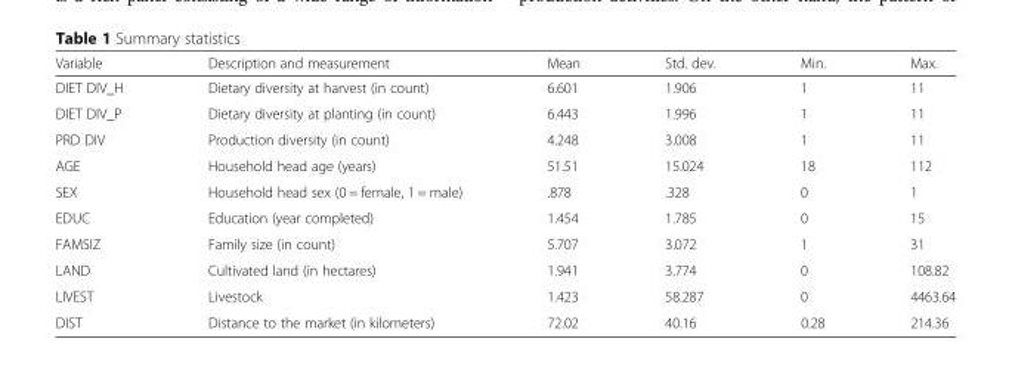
<table><thead><tr><td>Variable</td><td>Description and measurement</td><td>Mean</td><td>Std. dev.</td><td>Min.</td><td>Max.</td></tr></thead><tbody><tr><td>DIET DIV_H</td><td>Dietary diversity at harvest (in count)</td><td>6.601</td><td>1.906</td><td>1</td><td>11</td></tr><tr><td>DIET DIV_P</td><td>Dietary diversity at planting (in count)</td><td>6.443</td><td>1.996</td><td>1</td><td>11</td></tr><tr><td>PRD DIV</td><td>Production diversity (in count)</td><td>4.248</td><td>3.008</td><td>1</td><td>11</td></tr><tr><td>AGE</td><td>Household head age (years)</td><td>51.51</td><td>15.024</td><td>18</td><td>112</td></tr><tr><td>SEX</td><td>Household head sex (0 = female, 1 = male)</td><td>.878</td><td>.328</td><td>0</td><td>1</td></tr><tr><td>EDUC</td><td>Education (year completed)</td><td>1.454</td><td>1.785</td><td>0</td><td>15</td></tr><tr><td>FAMSIZ</td><td>Family size (in count)</td><td>5.707</td><td>3.072</td><td>1</td><td>31</td></tr><tr><td>LAND</td><td>Cultivated land (in hectares)</td><td>1.941</td><td>3.774</td><td>0</td><td>108.82</td></tr><tr><td>LIVEST</td><td>Livestock</td><td>1.423</td><td>58.287</td><td>0</td><td>4463.64</td></tr><tr><td>DIST</td><td>Distance to the market (in kilometers)</td><td>72.02</td><td>40.16</td><td>0.28</td><td>214.36</td></tr></tbody></table>